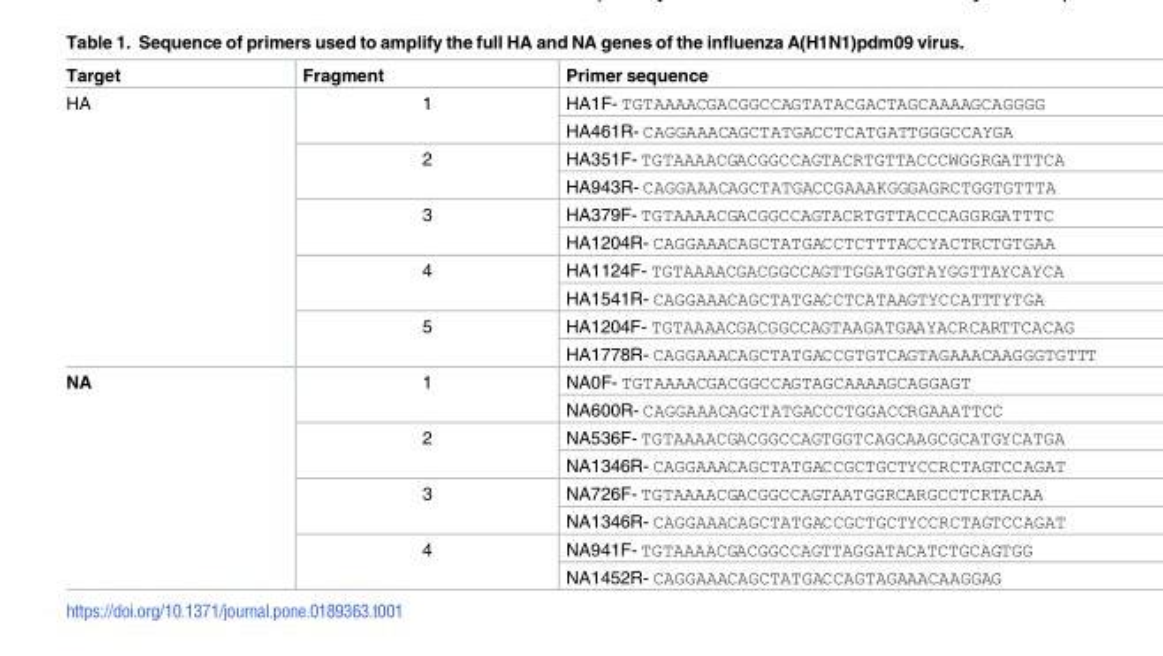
<table><thead><tr><td>Target</td><td>Fragment</td><td>Primer sequence</td></tr></thead><tbody><tr><td rowspan="10">HA</td><td rowspan="2">1</td><td>HA1F- TGTAAAACGACGGCCAGTATACGACTAGCAAAAGCAGGGG</td></tr><tr><td>HA461R- CAGGAAACAGCTATGACCTCATGATTGGGCCAYGA</td></tr><tr><td rowspan="2">2</td><td>HA351F- TGTAAAACGACGGCCAGTACRTGTTACCCWGGRGATTTCA</td></tr><tr><td>HA943R- CAGGAAACAGCTATGACCGAAAKGGGAGRCTGGTGTTTA</td></tr><tr><td rowspan="2">3</td><td>HA379F- TGTAAAACGACGGCCAGTACRTGTTACCCAGGRGATTTC</td></tr><tr><td>HA1204R- CAGGAAACAGCTATGACCTCTTTACCYACTRCTGTGAA</td></tr><tr><td rowspan="2">4</td><td>HA1124F- TGTAAAACGACGGCCAGTTGGATGGTAYGGTTAYCAYCA</td></tr><tr><td>HA1541R- CAGGAAACAGCTATGACCTCATAAGTYCCATTTYTGA</td></tr><tr><td rowspan="2">5</td><td>HA1204F- TGTAAAACGACGGCCAGTAAGATGAAYACRCARTTCACAG</td></tr><tr><td>HA1778R- CAGGAAACAGCTATGACCGTGTCAGTAGAAACAAGGGTGTTT</td></tr><tr><td rowspan="8">NA</td><td rowspan="2">1</td><td>NA0F- TGTAAAACGACGGCCAGTAGCAAAAGCAGGAGT</td></tr><tr><td>NA600R- CAGGAAACAGCTATGACCCTGGACCRGAAATTCC</td></tr><tr><td rowspan="2">2</td><td>NA536F- TGTAAAACGACGGCCAGTGGTCAGCAAGCGCATGYCATGA</td></tr><tr><td>NA1346R- CAGGAAACAGCTATGACCGCTGCTYCCRCTAGTCCAGAT</td></tr><tr><td rowspan="2">3</td><td>NA726F- TGTAAAACGACGGCCAGTAATGGRCARGCCTCRTACAA</td></tr><tr><td>NA1346R- CAGGAAACAGCTATGACCGCTGCTYCCRCTAGTCCAGAT</td></tr><tr><td rowspan="2">4</td><td>NA941F- TGTAAAACGACGGCCAGTTAGGATACATCTGCAGTGG</td></tr><tr><td>NA1452R- CAGGAAACAGCTATGACCAGTAGAAACAAGGAG</td></tr></tbody></table>